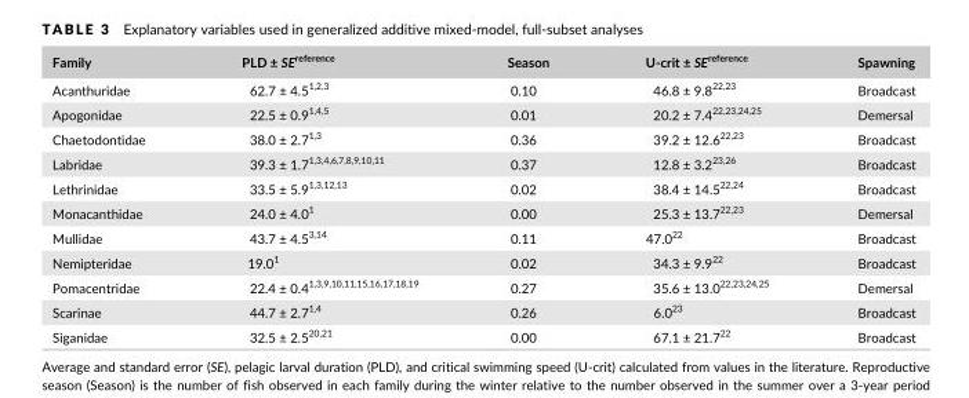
<table><thead><tr><td>Family</td><td>PLD ± SE<sup>reference</sup></td><td>Season</td><td>U- crit ± SE<sup>reference</sup></td><td>Spawning</td></tr></thead><tbody><tr><td>Acanthuridae</td><td>62.7 ± 4.5<sup>1,2,3</sup></td><td>0.10</td><td>46.8 ± 9.8<sup>22,23</sup></td><td>Broadcast</td></tr><tr><td>Apogonidae</td><td>22.5 ± 0.9<sup>1,4,5</sup></td><td>0.01</td><td>20.2 ± 7.4<sup>22,23,24,25</sup></td><td>Demersal</td></tr><tr><td>Chaetodontidae</td><td>38.0 ± 2.7<sup>1,3</sup></td><td>0.36</td><td>39.2 ± 12.6<sup>22,23</sup></td><td>Broadcast</td></tr><tr><td>Labridae</td><td>39.3 ± 1.7<sup>1,3,4,6,7,8,9,10,11</sup></td><td>0.37</td><td>12.8 ± 3.2<sup>23,26</sup></td><td>Broadcast</td></tr><tr><td>Lethrinidae</td><td>33.5 ± 5.9<sup>1,3,12,13</sup></td><td>0.02</td><td>38.4 ± 14.5<sup>22,24</sup></td><td>Broadcast</td></tr><tr><td>Monacanthidae</td><td>24.0 ± 4.0<sup>1</sup></td><td>0.00</td><td>25.3 ± 13.7<sup>22,23</sup></td><td>Demersal</td></tr><tr><td>Mullidae</td><td>43.7 ± 4.5<sup>3,14</sup></td><td>0.11</td><td>47.0<sup>22</sup></td><td>Broadcast</td></tr><tr><td>Nemipteridae</td><td>19.0<sup>1</sup></td><td>0.02</td><td>34.3 ± 9.9<sup>22</sup></td><td>Broadcast</td></tr><tr><td>Pomacentridae</td><td>22.4 ± 0.4<sup>1,3,9,10,11,15,16,17,18,19</sup></td><td>0.27</td><td>35.6 ± 13.0<sup>22,23,24,25</sup></td><td>Demersal</td></tr><tr><td>Scarinae</td><td>44.7 ± 2.7<sup>1,4</sup></td><td>0.26</td><td>6.0<sup>23</sup></td><td>Broadcast</td></tr><tr><td>Siganidae</td><td>32.5 ± 2.5<sup>20,21</sup></td><td>0.00</td><td>67.1 ± 21.7<sup>22</sup></td><td>Broadcast</td></tr></tbody></table>